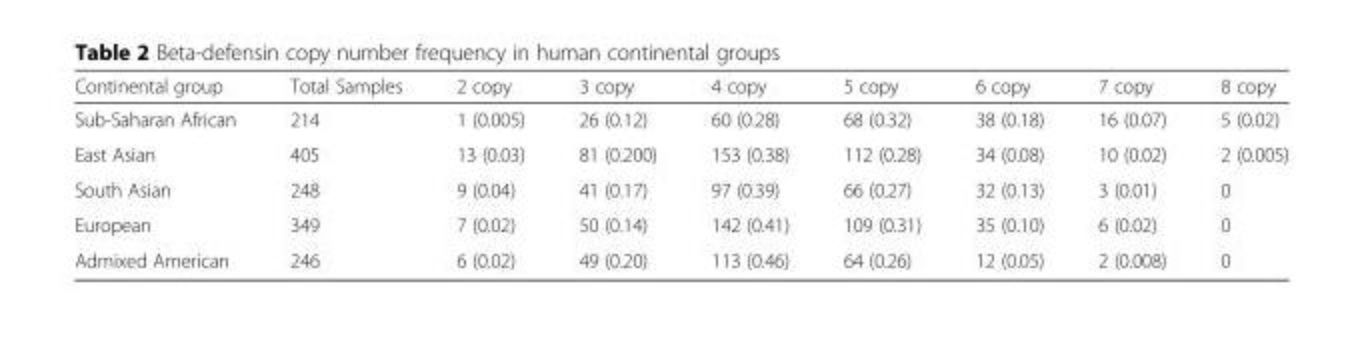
<table><thead><tr><td>Continental group</td><td>Total Samples</td><td>2 copy</td><td>3 copy</td><td>4 copy</td><td>5 copy</td><td>6 copy</td><td>7 copy</td><td>8 copy</td></tr></thead><tbody><tr><td>Sub-Saharan African</td><td>214</td><td>1 (0.005)</td><td>26 (0.12)</td><td>60 (0.28)</td><td>68 (0.32)</td><td>38 (0.18)</td><td>16 (0.07)</td><td>5 (0.02)</td></tr><tr><td>East Asian</td><td>405</td><td>13 (0.03)</td><td>81 (0.200)</td><td>153 (0.38)</td><td>112 (0.28)</td><td>34 (0.08)</td><td>10 (0.02)</td><td>2 (0.005)</td></tr><tr><td>South Asian</td><td>248</td><td>9 (0.04)</td><td>41 (0.17)</td><td>97 (0.39)</td><td>66 (0.27)</td><td>32 (0.13)</td><td>3 (0.01)</td><td>0</td></tr><tr><td>European</td><td>349</td><td>7 (0.02)</td><td>50 (0.14)</td><td>142 (0.41)</td><td>109 (0.31)</td><td>35 (0.10)</td><td>6 (0.02)</td><td>0</td></tr><tr><td>Admixed American</td><td>246</td><td>6 (0.02)</td><td>49 (0.20)</td><td>113 (0.46)</td><td>64 (0.26)</td><td>12 (0.05)</td><td>2 (0.008)</td><td>0</td></tr></tbody></table>